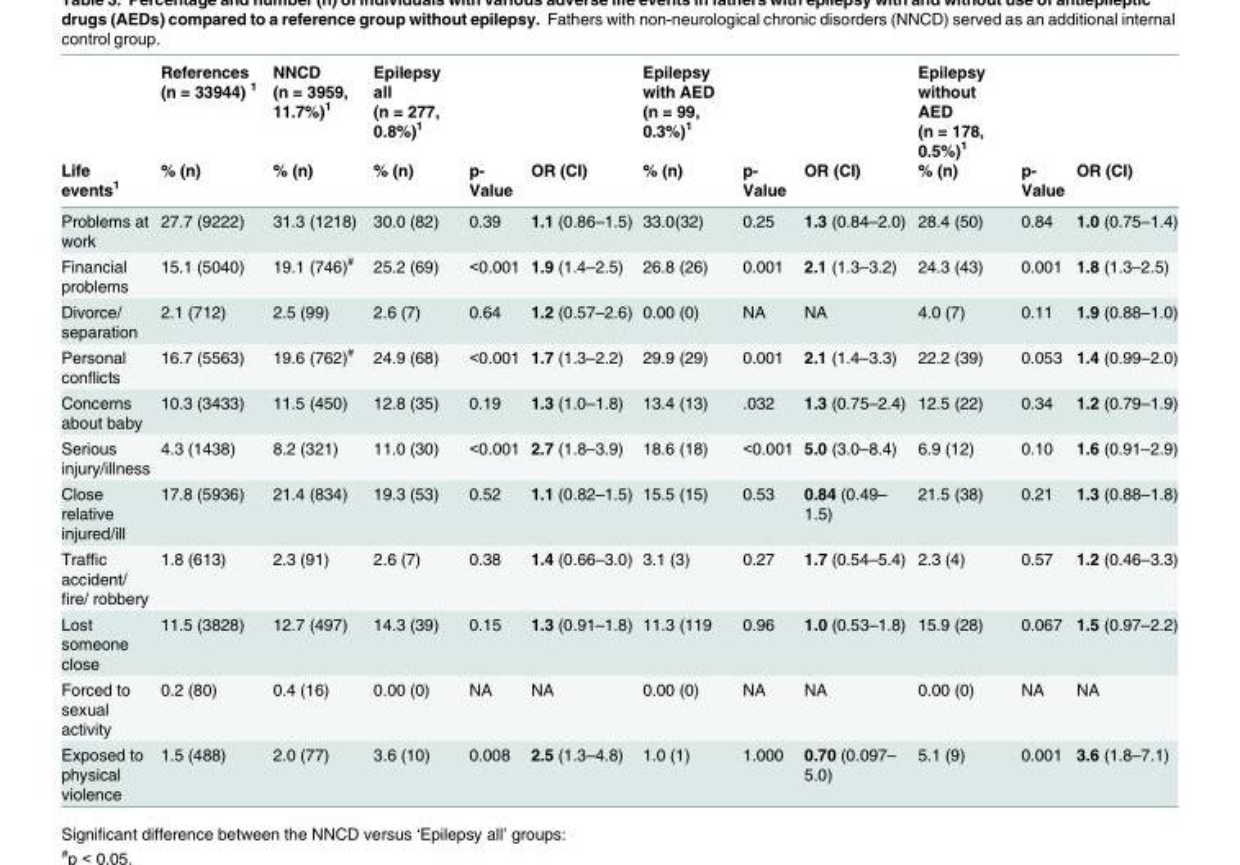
<table><thead><tr><td rowspan="2">Life events<sup>1</sup></td><td rowspan="2">References (n = 33944) <sup>1</sup> % (n)</td><td rowspan="2">NNCD (n = 3959, 11.7%)<sup>1</sup> % (n)</td><td rowspan="2">Epilepsy all (n = 277, 0.8%)<sup>1</sup> % (n)</td><td rowspan="2">p- Value</td><td rowspan="2">OR (CI)</td><td rowspan="2">Epilepsy with AED (n = 99, 0.3%)<sup>1</sup> % (n)</td><td rowspan="2">p- Value</td><td rowspan="2">OR (CI)</td><td rowspan="2">Epilepsy without AED (n = 178, 0.5%)<sup>1</sup> % (n)</td><td rowspan="2">p- Value</td><td rowspan="2">OR (CI)</td></tr><tr></tr></thead><tbody><tr><td>Problems at work</td><td>27.7 (9222)</td><td>31.3 (1218)</td><td>30.0 (82)</td><td>0.39</td><td>1.1 (0.86–1.5)</td><td>33.0(32)</td><td>0.25</td><td>1.3 (0.84–2.0)</td><td>28.4 (50)</td><td>0.84</td><td>1.0 (0.75–1.4)</td></tr><tr><td>Financial problems</td><td>15.1 (5040)</td><td>19.1 (746)<sup>#</sup></td><td>25.2 (69)</td><td>&lt;0.001</td><td>1.9 (1.4–2.5)</td><td>26.8 (26)</td><td>0.001</td><td>2.1 (1.3–3.2)</td><td>24.3 (43)</td><td>0.001</td><td>1.8 (1.3–2.5)</td></tr><tr><td>Divorce/ separation</td><td>2.1 (712)</td><td>2.5 (99)</td><td>2.6 (7)</td><td>0.64</td><td>1.2 (0.57–2.6)</td><td>0.00 (0)</td><td>NA</td><td>NA</td><td>4.0 (7)</td><td>0.11</td><td>1.9 (0.88–1.0)</td></tr><tr><td>Personal conflicts</td><td>16.7 (5563)</td><td>19.6 (762)<sup>#</sup></td><td>24.9 (68)</td><td>&lt;0.001</td><td>1.7 (1.3–2.2)</td><td>29.9 (29)</td><td>0.001</td><td>2.1 (1.4–3.3)</td><td>22.2 (39)</td><td>0.053</td><td>1.4 (0.99–2.0)</td></tr><tr><td>Concerns about baby</td><td>10.3 (3433)</td><td>11.5 (450)</td><td>12.8 (35)</td><td>0.19</td><td>1.3 (1.0–1.8)</td><td>13.4 (13)</td><td>.032</td><td>1.3 (0.75–2.4)</td><td>12.5 (22)</td><td>0.34</td><td>1.2 (0.79–1.9)</td></tr><tr><td>Serious injury/illness</td><td>4.3 (1438)</td><td>8.2 (321)</td><td>11.0 (30)</td><td>&lt;0.001</td><td>2.7 (1.8–3.9)</td><td>18.6 (18)</td><td>&lt;0.001</td><td>5.0 (3.0–8.4)</td><td>6.9 (12)</td><td>0.10</td><td>1.6 (0.91–2.9)</td></tr><tr><td>Close relative injured/ill</td><td>17.8 (5936)</td><td>21.4 (834)</td><td>19.3 (53)</td><td>0.52</td><td>1.1 (0.82–1.5)</td><td>15.5 (15)</td><td>0.53</td><td>0.84 (0.49– 1.5)</td><td>21.5 (38)</td><td>0.21</td><td>1.3 (0.88–1.8)</td></tr><tr><td>Traffic accident/ fire/ robbery</td><td>1.8 (613)</td><td>2.3 (91)</td><td>2.6 (7)</td><td>0.38</td><td>1.4 (0.66–3.0)</td><td>3.1 (3)</td><td>0.27</td><td>1.7 (0.54–5.4)</td><td>2.3 (4)</td><td>0.57</td><td>1.2 (0.46–3.3)</td></tr><tr><td>Lost someone close</td><td>11.5 (3828)</td><td>12.7 (497)</td><td>14.3 (39)</td><td>0.15</td><td>1.3 (0.91–1.8)</td><td>11.3 (119</td><td>0.96</td><td>1.0 (0.53–1.8)</td><td>15.9 (28)</td><td>0.067</td><td>1.5 (0.97–2.2)</td></tr><tr><td>Forced to sexual activity</td><td>0.2 (80)</td><td>0.4 (16)</td><td>0.00 (0)</td><td>NA</td><td>NA</td><td>0.00 (0)</td><td>NA</td><td>NA</td><td>0.00 (0)</td><td>NA</td><td>NA</td></tr><tr><td>Exposed to physical violence</td><td>1.5 (488)</td><td>2.0 (77)</td><td>3.6 (10)</td><td>0.008</td><td>2.5 (1.3–4.8)</td><td>1.0 (1)</td><td>1.000</td><td>0.70 (0.097– 5.0)</td><td>5.1 (9)</td><td>0.001</td><td>3.6 (1.8–7.1)</td></tr></tbody></table>